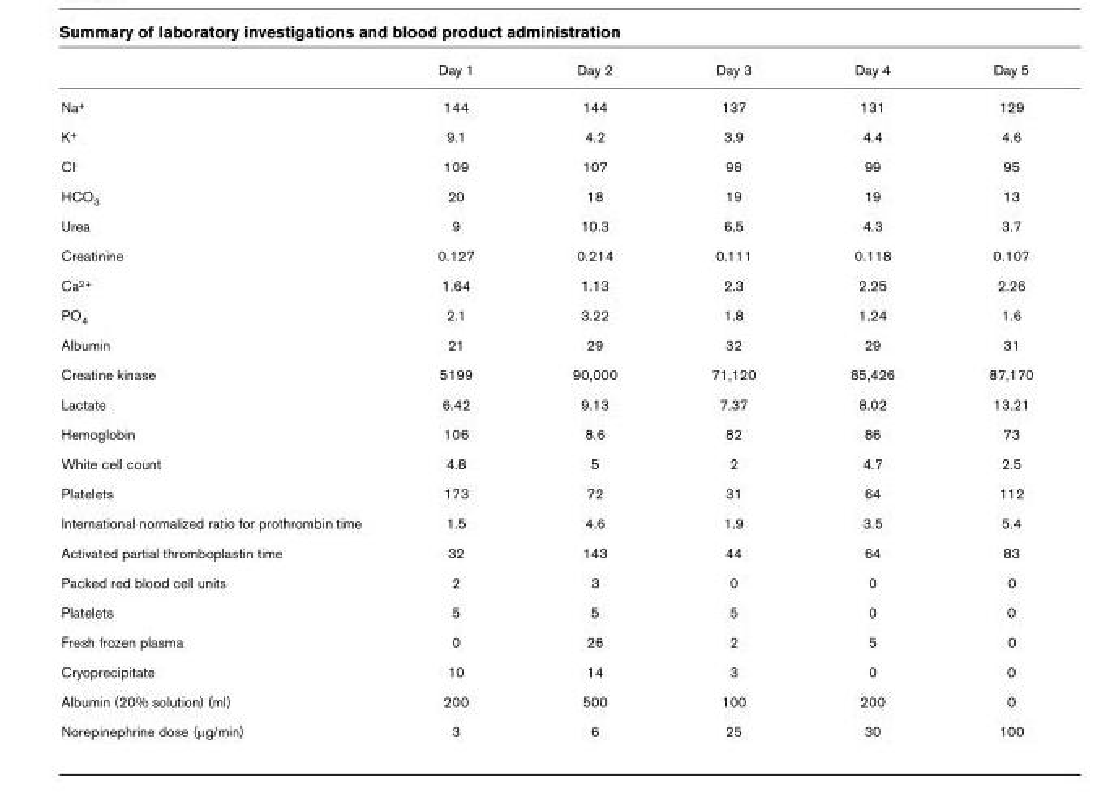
<table><thead><tr><td></td><td>Day 1</td><td>Day 2</td><td>Day 3</td><td>Day 4</td><td>Day 5</td></tr></thead><tbody><tr><td>Na+</td><td>144</td><td>144</td><td>137</td><td>131</td><td>129</td></tr><tr><td>K+</td><td>9.1</td><td>4.2</td><td>3.9</td><td>4.4</td><td>4.6</td></tr><tr><td>Cl-</td><td>109</td><td>107</td><td>98</td><td>99</td><td>95</td></tr><tr><td>HCO3</td><td>20</td><td>18</td><td>19</td><td>19</td><td>13</td></tr><tr><td>Urea</td><td>9</td><td>10.3</td><td>6.5</td><td>4.3</td><td>3.7</td></tr><tr><td>Creatinine</td><td>0.127</td><td>0.214</td><td>0.111</td><td>0.118</td><td>0.107</td></tr><tr><td>Ca2+</td><td>1.64</td><td>1.13</td><td>2.3</td><td>2.25</td><td>2.26</td></tr><tr><td>PO4</td><td>2.1</td><td>3.22</td><td>1.8</td><td>1.24</td><td>1.6</td></tr><tr><td>Albumin</td><td>21</td><td>29</td><td>32</td><td>29</td><td>31</td></tr><tr><td>Creatine kinase</td><td>5199</td><td>90,000</td><td>71,120</td><td>85,426</td><td>87,170</td></tr><tr><td>Lactate</td><td>6.42</td><td>9.13</td><td>7.37</td><td>8.02</td><td>13.21</td></tr><tr><td>Hemoglobin</td><td>106</td><td>8.6</td><td>82</td><td>86</td><td>73</td></tr><tr><td>White cell count</td><td>4.8</td><td>5</td><td>2</td><td>4.7</td><td>2.5</td></tr><tr><td>Platelets</td><td>173</td><td>72</td><td>31</td><td>64</td><td>112</td></tr><tr><td>International normalized ratio for prothrombin time</td><td>1.5</td><td>4.6</td><td>1.9</td><td>3.5</td><td>5.4</td></tr><tr><td>Activated partial thromboplastin time</td><td>32</td><td>143</td><td>44</td><td>64</td><td>83</td></tr><tr><td>Packed red blood cell units</td><td>2</td><td>3</td><td>0</td><td>0</td><td>0</td></tr><tr><td>Platelets</td><td>5</td><td>5</td><td>5</td><td>0</td><td>0</td></tr><tr><td>Fresh frozen plasma</td><td>0</td><td>26</td><td>2</td><td>5</td><td>0</td></tr><tr><td>Cryoprecipitate</td><td>10</td><td>14</td><td>3</td><td>0</td><td>0</td></tr><tr><td>Albumin (20% solution) (ml)</td><td>200</td><td>500</td><td>100</td><td>200</td><td>0</td></tr><tr><td>Norepinephrine dose (µg/min)</td><td>3</td><td>6</td><td>25</td><td>30</td><td>100</td></tr></tbody></table>